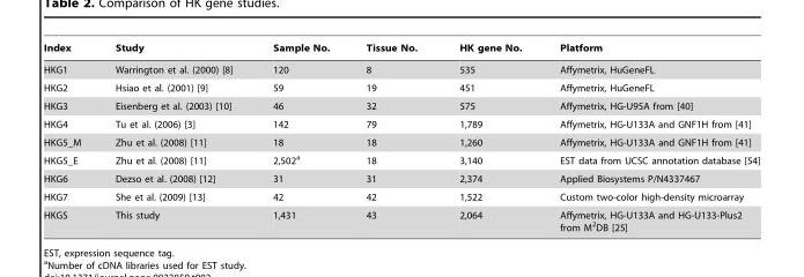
<table><thead><tr><td>Index</td><td>Study</td><td>Sample No.</td><td>Tissue No.</td><td>HK gene No.</td><td>Platform</td></tr></thead><tbody><tr><td>HKG1</td><td>Warrington et al. (2000) [8]</td><td>120</td><td>8</td><td>535</td><td>Affymetrix, HuGeneFL</td></tr><tr><td>HKG2</td><td>Hsiao et al. (2001) [9]</td><td>59</td><td>19</td><td>451</td><td>Affymetrix, HuGeneFL</td></tr><tr><td>HKG3</td><td>Eisenberg et al. (2003) [10]</td><td>46</td><td>32</td><td>575</td><td>Affymetrix, HG-U95A from [40]</td></tr><tr><td>HKG4</td><td>Tu et al. (2006) [3]</td><td>142</td><td>79</td><td>1,789</td><td>Affymetrix, HG-U133A and GNF1H from [41]</td></tr><tr><td>HKG5_M</td><td>Zhu et al. (2008) [11]</td><td>18</td><td>18</td><td>1,260</td><td>Affymetrix, HG-U133A and GNF1H from [41]</td></tr><tr><td>HKG5_E</td><td>Zhu et al. (2008) [11]</td><td>2,502<sup>a</sup></td><td>18</td><td>3,140</td><td>EST data from UCSC annotation database [54]</td></tr><tr><td>HKG6</td><td>Dezso et al. (2008) [12]</td><td>31</td><td>31</td><td>2,374</td><td>Applied Biosystems P/N4337467</td></tr><tr><td>HKG7</td><td>She et al. (2009) [13]</td><td>42</td><td>42</td><td>1,522</td><td>Custom two-color high-density microarray</td></tr><tr><td>HKGS</td><td>This study</td><td>1,431</td><td>43</td><td>2,064</td><td>Affymetrix, HG-U133A and HG-U133-Plus2 from M<sup>2</sup>DB [25]</td></tr></tbody></table>